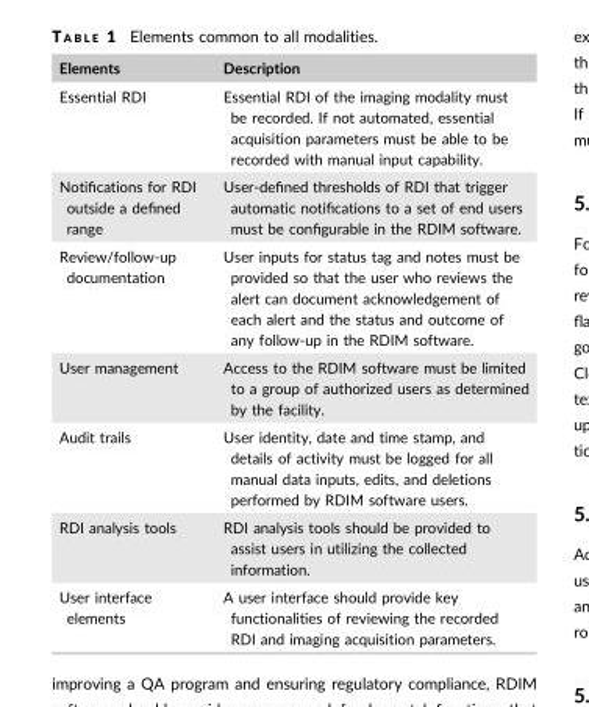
<table><thead><tr><td>Elements</td><td>Description</td></tr></thead><tbody><tr><td>Essential RDI</td><td>Essential RDI of the imaging modality must be recorded. If not automated, essential acquisition parameters must be able to be recorded with manual input capability.</td></tr><tr><td>Notifications for RDI outside a defined range</td><td>User-defined thresholds of RDI that trigger automatic notifications to a set of end users must be configurable in the RDIM software.</td></tr><tr><td>Review/follow-up documentation</td><td>User inputs for status tag and notes must be provided so that the user who reviews the alert can document acknowledgement of each alert and the status and outcome of any follow-up in the RDIM software.</td></tr><tr><td>User management</td><td>Access to the RDIM software must be limited to a group of authorized users as determined by the facility.</td></tr><tr><td>Audit trails</td><td>User identity, date and time stamp, and details of activity must be logged for all manual data inputs, edits, and deletions performed by RDIM software users.</td></tr><tr><td>RDI analysis tools</td><td>RDI analysis tools should be provided to assist users in utilizing the collected information.</td></tr><tr><td>User interface elements</td><td>A user interface should provide key functionalities of reviewing the recorded RDI and imaging acquisition parameters.</td></tr></tbody></table>